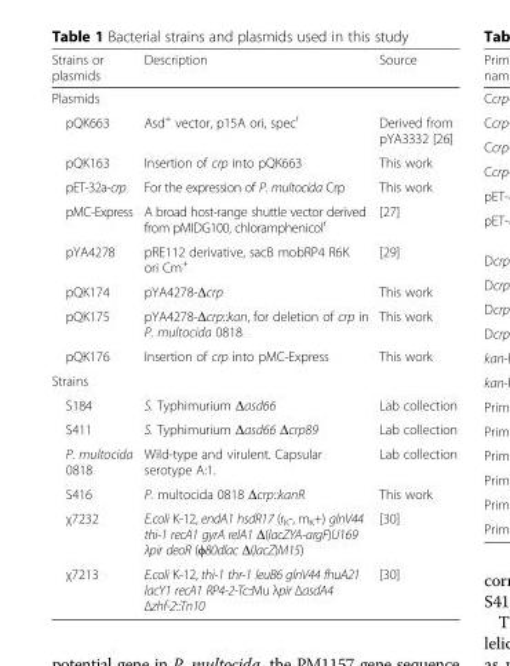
<table><thead><tr><td>Strains or plasmids</td><td>Description</td><td>Source</td></tr></thead><tbody><tr><td colspan="3">Plasmids</td></tr><tr><td>pQK663</td><td>Asd<sup>+</sup> vector, p15A ori, spec<sup>r</sup></td><td>Derived from pYA3332 [26]</td></tr><tr><td>pQK163</td><td>Insertion of crp into pQK663</td><td>This work</td></tr><tr><td>pET-32a-crp</td><td>For the expression of P. multocida Crp</td><td>This work</td></tr><tr><td>pMC-Express</td><td>A broad host-range shuttle vector derived from pMIDG100, chloramphenicol<sup>r</sup></td><td>[27]</td></tr><tr><td>pYA4278</td><td>pRE112 derivative, sacB mobRP4 R6K ori Cm<sup>+</sup></td><td>[29]</td></tr><tr><td>pQK174</td><td>pYA4278-Δcrp</td><td>This work</td></tr><tr><td>pQK175</td><td>pYA4278-Δcrp::kan, for deletion of crp in P. multocida 0818</td><td>This work</td></tr><tr><td>pQK176</td><td>Insertion of crp into pMC-Express</td><td>This work</td></tr><tr><td colspan="3">Strains</td></tr><tr><td>S184</td><td>S. Typhimurium Δasd66</td><td>Lab collection</td></tr><tr><td>S411</td><td>S. Typhimurium Δasd66 Δcrp89</td><td>Lab collection</td></tr><tr><td>P. multocida 0818</td><td>Wild-type and virulent. Capsular serotype A:1.</td><td>Lab collection</td></tr><tr><td>S416</td><td>P. multocida 0818 Δcrp::kanR</td><td>This work</td></tr><tr><td>χ7232</td><td>E.coli K-12, endA1 hsdR17 (r<sub>K</sub>-, m<sub>K</sub>+) glnV44 thi-1 recA1 gyrA relA1 Δ(lacZYA-argF)U169 λpir deoR (ϕ80dlac Δ(lacZ)M15)</td><td>[30]</td></tr><tr><td>χ7213</td><td>E.coli K-12, thi-1 thr-1 leuB6 glnV44 fhuA21 lacY1 recA1 RP4-2-Tc::Mu λpir ΔasdA4 Δzhf-2::Tn10</td><td>[30]</td></tr></tbody></table>